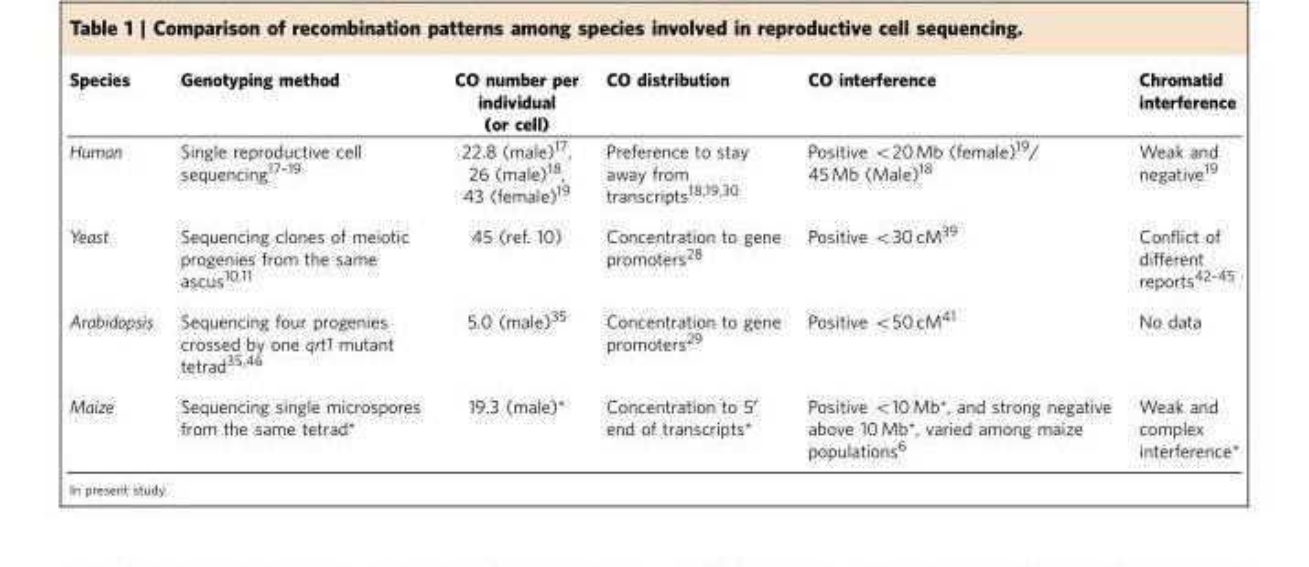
<table><thead><tr><td>Species</td><td>Genotyping method</td><td>CO number per individual (or cell)</td><td>CO distribution</td><td>CO interference</td><td>Chromatid interference</td></tr></thead><tbody><tr><td>Human</td><td>Single reproductive cell sequencing17–19</td><td>22.8 (male)<sup>17</sup>, 26 (male)<sup>18</sup>, 43 (female)<sup>19</sup></td><td>Preference to stay away from transcripts<sup>18</sup>,<sup>19</sup>,<sup>30</sup></td><td>Positive &lt;20 Mb (female)<sup>19</sup>/ 45 Mb (Male)<sup>18</sup></td><td>Weak and negative<sup>19</sup></td></tr><tr><td>Yeast</td><td>Sequencing clones of meiotic progenies from the same ascus<sup>10</sup>,<sup>11</sup></td><td>45 (ref. 10)</td><td>Concentration to gene promoters<sup>28</sup></td><td>Positive &lt;30 cM<sup>39</sup></td><td>Conflict of different reports42–45</td></tr><tr><td>Arabidopsis</td><td>Sequencing four progenies crossed by one qrt1 mutant tetrad<sup>35</sup>,<sup>46</sup></td><td>5.0 (male)<sup>35</sup></td><td>Concentration to gene promoters<sup>29</sup></td><td>Positive &lt;50 cM<sup>41</sup></td><td>No data</td></tr><tr><td>Maize</td><td>Sequencing single microspores from the same tetrad*</td><td>19.3 (male)*</td><td>Concentration to 5′ end of transcripts*</td><td>Positive &lt;10 Mb*, and strong negative above 10 Mb*, varied among maize populations<sup>6</sup></td><td>Weak and complex interference*</td></tr><tr><td colspan="6">In present study.</td></tr></tbody></table>